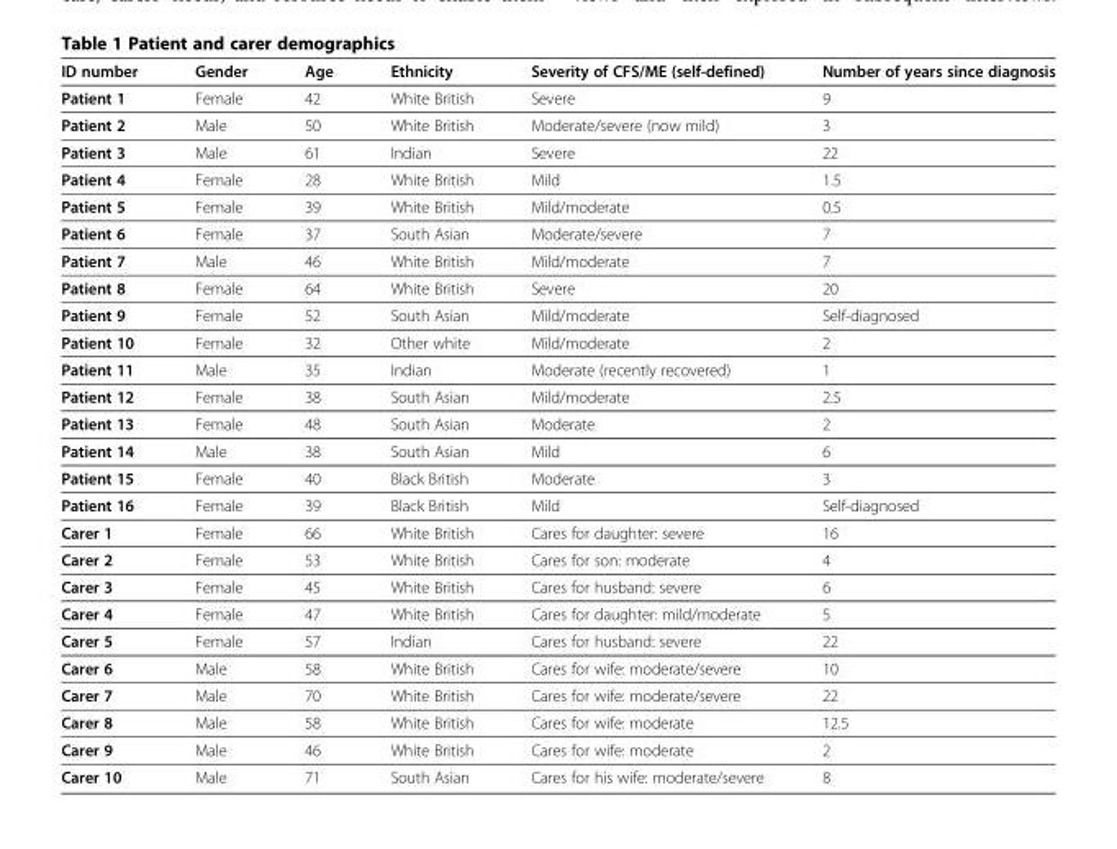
<table><thead><tr><td>ID number</td><td>Gender</td><td>Age</td><td>Ethnicity</td><td>Severity of CFS/ME (self-defined)</td><td>Number of years since diagnosis</td></tr></thead><tbody><tr><td>Patient 1</td><td>Female</td><td>42</td><td>White British</td><td>Severe</td><td>9</td></tr><tr><td>Patient 2</td><td>Male</td><td>50</td><td>White British</td><td>Moderate/severe (now mild)</td><td>3</td></tr><tr><td>Patient 3</td><td>Male</td><td>61</td><td>Indian</td><td>Severe</td><td>22</td></tr><tr><td>Patient 4</td><td>Female</td><td>28</td><td>White British</td><td>Mild</td><td>1.5</td></tr><tr><td>Patient 5</td><td>Female</td><td>39</td><td>White British</td><td>Mild/moderate</td><td>0.5</td></tr><tr><td>Patient 6</td><td>Female</td><td>37</td><td>South Asian</td><td>Moderate/severe</td><td>7</td></tr><tr><td>Patient 7</td><td>Male</td><td>46</td><td>White British</td><td>Mild/moderate</td><td>7</td></tr><tr><td>Patient 8</td><td>Female</td><td>64</td><td>White British</td><td>Severe</td><td>20</td></tr><tr><td>Patient 9</td><td>Female</td><td>52</td><td>South Asian</td><td>Mild/moderate</td><td>Self-diagnosed</td></tr><tr><td>Patient 10</td><td>Female</td><td>32</td><td>Other white</td><td>Mild/moderate</td><td>2</td></tr><tr><td>Patient 11</td><td>Male</td><td>35</td><td>Indian</td><td>Moderate (recently recovered)</td><td>1</td></tr><tr><td>Patient 12</td><td>Female</td><td>38</td><td>South Asian</td><td>Mild/moderate</td><td>2.5</td></tr><tr><td>Patient 13</td><td>Female</td><td>48</td><td>South Asian</td><td>Moderate</td><td>2</td></tr><tr><td>Patient 14</td><td>Male</td><td>38</td><td>South Asian</td><td>Mild</td><td>6</td></tr><tr><td>Patient 15</td><td>Female</td><td>40</td><td>Black British</td><td>Moderate</td><td>3</td></tr><tr><td>Patient 16</td><td>Female</td><td>39</td><td>Black British</td><td>Mild</td><td>Self-diagnosed</td></tr><tr><td>Carer 1</td><td>Female</td><td>66</td><td>White British</td><td>Cares for daughter: severe</td><td>16</td></tr><tr><td>Carer 2</td><td>Female</td><td>53</td><td>White British</td><td>Cares for son: moderate</td><td>4</td></tr><tr><td>Carer 3</td><td>Female</td><td>45</td><td>White British</td><td>Cares for husband: severe</td><td>6</td></tr><tr><td>Carer 4</td><td>Female</td><td>47</td><td>White British</td><td>Cares for daughter: mild/moderate</td><td>5</td></tr><tr><td>Carer 5</td><td>Female</td><td>57</td><td>Indian</td><td>Cares for husband: severe</td><td>22</td></tr><tr><td>Carer 6</td><td>Male</td><td>58</td><td>White British</td><td>Cares for wife: moderate/severe</td><td>10</td></tr><tr><td>Carer 7</td><td>Male</td><td>70</td><td>White British</td><td>Cares for wife: moderate/severe</td><td>22</td></tr><tr><td>Carer 8</td><td>Male</td><td>58</td><td>White British</td><td>Cares for wife: moderate</td><td>12.5</td></tr><tr><td>Carer 9</td><td>Male</td><td>46</td><td>White British</td><td>Cares for wife: moderate</td><td>2</td></tr><tr><td>Carer 10</td><td>Male</td><td>71</td><td>South Asian</td><td>Cares for his wife: moderate/severe</td><td>8</td></tr></tbody></table>